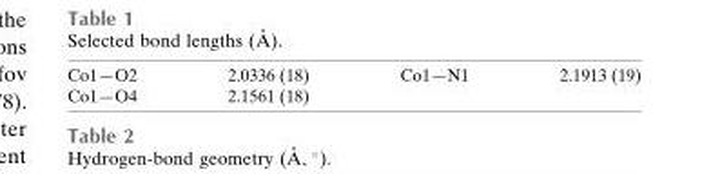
<table><tbody><tr><td>Co1—O2</td><td>2.0336 (18)</td><td>Co1—N1</td><td>2.1913 (19)</td></tr><tr><td>Co1—O4</td><td>2.1561 (18)</td><td></td><td></td></tr></tbody></table>